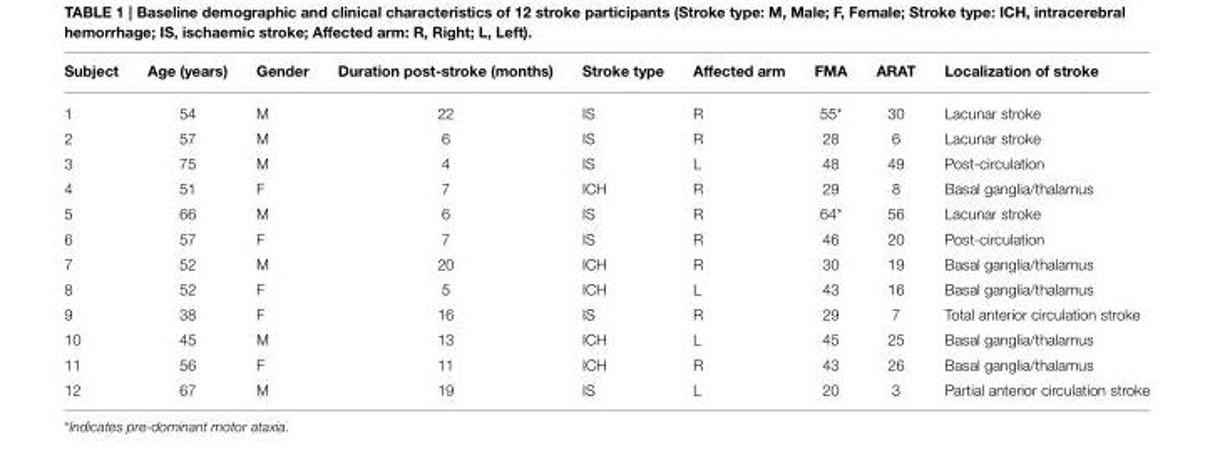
<table><thead><tr><td>Subject</td><td>Age (years)</td><td>Gender</td><td>Duration post-stroke (months)</td><td>Stroke type</td><td>Affected arm</td><td>FMA</td><td>ARAT</td><td>Localization of stroke</td></tr></thead><tbody><tr><td>1</td><td>54</td><td>M</td><td>22</td><td>IS</td><td>R</td><td>55*</td><td>30</td><td>Lacunar stroke</td></tr><tr><td>2</td><td>57</td><td>M</td><td>6</td><td>IS</td><td>R</td><td>28</td><td>6</td><td>Lacunar stroke</td></tr><tr><td>3</td><td>75</td><td>M</td><td>4</td><td>IS</td><td>L</td><td>48</td><td>49</td><td>Post-circulation</td></tr><tr><td>4</td><td>51</td><td>F</td><td>7</td><td>ICH</td><td>R</td><td>29</td><td>8</td><td>Basal ganglia/thalamus</td></tr><tr><td>5</td><td>66</td><td>M</td><td>6</td><td>IS</td><td>R</td><td>64*</td><td>56</td><td>Lacunar stroke</td></tr><tr><td>6</td><td>57</td><td>F</td><td>7</td><td>IS</td><td>R</td><td>46</td><td>20</td><td>Post-circulation</td></tr><tr><td>7</td><td>52</td><td>M</td><td>20</td><td>ICH</td><td>R</td><td>30</td><td>19</td><td>Basal ganglia/thalamus</td></tr><tr><td>8</td><td>52</td><td>F</td><td>5</td><td>ICH</td><td>L</td><td>43</td><td>16</td><td>Basal ganglia/thalamus</td></tr><tr><td>9</td><td>38</td><td>F</td><td>16</td><td>IS</td><td>R</td><td>29</td><td>7</td><td>Total anterior circulation stroke</td></tr><tr><td>10</td><td>45</td><td>M</td><td>13</td><td>ICH</td><td>L</td><td>45</td><td>25</td><td>Basal ganglia/thalamus</td></tr><tr><td>11</td><td>56</td><td>F</td><td>11</td><td>ICH</td><td>R</td><td>43</td><td>26</td><td>Basal ganglia/thalamus</td></tr><tr><td>12</td><td>67</td><td>M</td><td>19</td><td>IS</td><td>L</td><td>20</td><td>3</td><td>Partial anterior circulation stroke</td></tr></tbody></table>